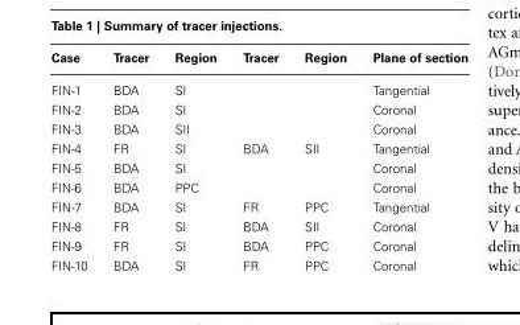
<table><thead><tr><td>Case</td><td>Tracer</td><td>Region</td><td>Tracer</td><td>Region</td><td>Plane of section</td></tr></thead><tbody><tr><td>FIN-1</td><td>BDA</td><td>SI</td><td></td><td></td><td>Tangential</td></tr><tr><td>FIN-2</td><td>BDA</td><td>SI</td><td></td><td></td><td>Coronal</td></tr><tr><td>FIN-3</td><td>BDA</td><td>SII</td><td></td><td></td><td>Coronal</td></tr><tr><td>FIN-4</td><td>FR</td><td>SI</td><td>BDA</td><td>SII</td><td>Tangential</td></tr><tr><td>FIN-5</td><td>BDA</td><td>SI</td><td></td><td></td><td>Coronal</td></tr><tr><td>FIN-6</td><td>BDA</td><td>PPC</td><td></td><td></td><td>Coronal</td></tr><tr><td>FIN-7</td><td>BDA</td><td>SI</td><td>FR</td><td>PPC</td><td>Tangential</td></tr><tr><td>FIN-8</td><td>FR</td><td>SI</td><td>BDA</td><td>SII</td><td>Coronal</td></tr><tr><td>FIN-9</td><td>FR</td><td>SI</td><td>BDA</td><td>PPC</td><td>Coronal</td></tr><tr><td>FIN-10</td><td>BDA</td><td>SI</td><td>FR</td><td>PPC</td><td>Coronal</td></tr></tbody></table>